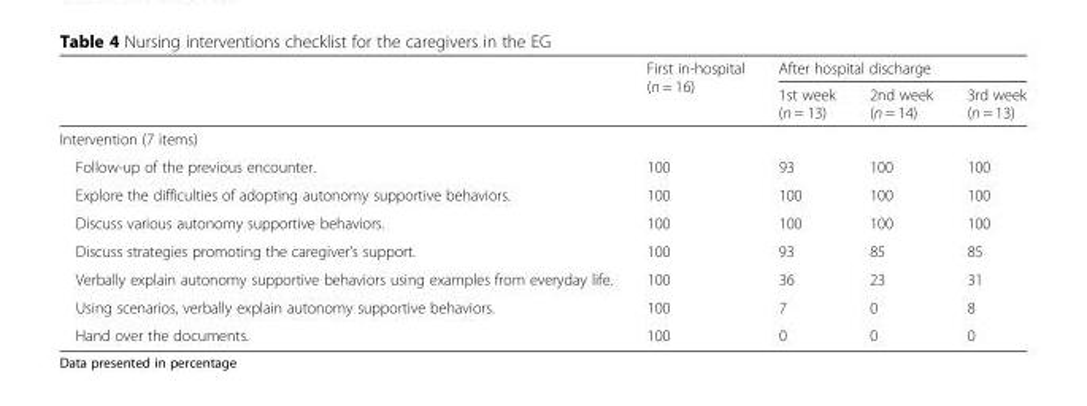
<table><thead><tr><td rowspan="2"></td><td rowspan="2">First in-hospital (n = 16)</td><td colspan="3">After hospital discharge</td></tr><tr><td>1st week (n = 13)</td><td>2nd week (n = 14)</td><td>3rd week (n = 13)</td></tr></thead><tbody><tr><td colspan="5">Intervention (7 items)</td></tr><tr><td>Follow-up of the previous encounter.</td><td>100</td><td>93</td><td>100</td><td>100</td></tr><tr><td>Explore the difficulties of adopting autonomy supportive behaviors.</td><td>100</td><td>100</td><td>100</td><td>100</td></tr><tr><td>Discuss various autonomy supportive behaviors.</td><td>100</td><td>100</td><td>100</td><td>100</td></tr><tr><td>Discuss strategies promoting the caregiver’s support.</td><td>100</td><td>93</td><td>85</td><td>85</td></tr><tr><td>Verbally explain autonomy supportive behaviors using examples from everyday life.</td><td>100</td><td>36</td><td>23</td><td>31</td></tr><tr><td>Using scenarios, verbally explain autonomy supportive behaviors.</td><td>100</td><td>7</td><td>0</td><td>8</td></tr><tr><td>Hand over the documents.</td><td>100</td><td>0</td><td>0</td><td>0</td></tr></tbody></table>